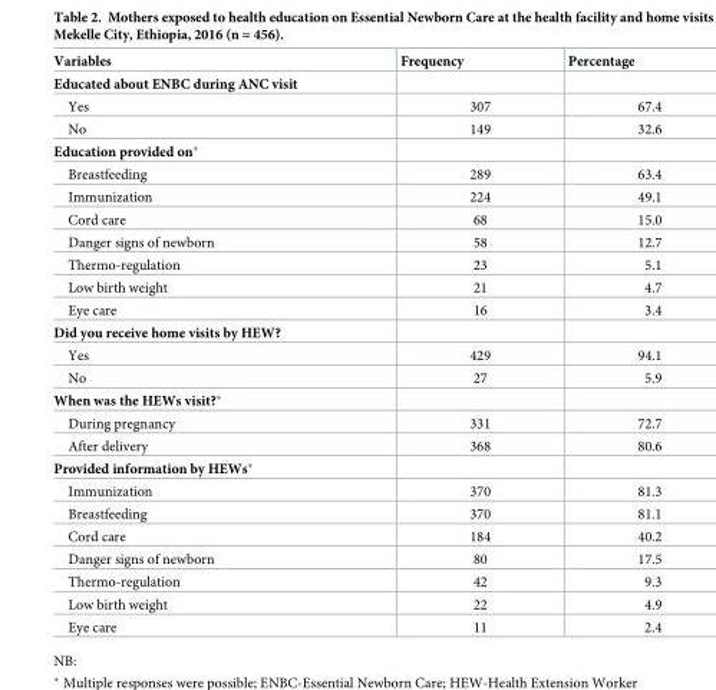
<table><thead><tr><td>Variables</td><td>Frequency</td><td>Percentage</td></tr></thead><tbody><tr><td colspan="3">Educated about ENBC during ANC visit</td></tr><tr><td>Yes</td><td>307</td><td>67.4</td></tr><tr><td>No</td><td>149</td><td>32.6</td></tr><tr><td colspan="3">Education provided on*</td></tr><tr><td>Breastfeeding</td><td>289</td><td>63.4</td></tr><tr><td>Immunization</td><td>224</td><td>49.1</td></tr><tr><td>Cord care</td><td>68</td><td>15.0</td></tr><tr><td>Danger signs of newborn</td><td>58</td><td>12.7</td></tr><tr><td>Thermo-regulation</td><td>23</td><td>5.1</td></tr><tr><td>Low birth weight</td><td>21</td><td>4.7</td></tr><tr><td>Eye care</td><td>16</td><td>3.4</td></tr><tr><td colspan="3">Did you receive home visits by HEW?</td></tr><tr><td>Yes</td><td>429</td><td>94.1</td></tr><tr><td>No</td><td>27</td><td>5.9</td></tr><tr><td colspan="3">When was the HEWs visit?*</td></tr><tr><td>During pregnancy</td><td>331</td><td>72.7</td></tr><tr><td>After delivery</td><td>368</td><td>80.6</td></tr><tr><td colspan="3">Provided information by HEWs*</td></tr><tr><td>Immunization</td><td>370</td><td>81.3</td></tr><tr><td>Breastfeeding</td><td>370</td><td>81.1</td></tr><tr><td>Cord care</td><td>184</td><td>40.2</td></tr><tr><td>Danger signs of newborn</td><td>80</td><td>17.5</td></tr><tr><td>Thermo-regulation</td><td>42</td><td>9.3</td></tr><tr><td>Low birth weight</td><td>22</td><td>4.9</td></tr><tr><td>Eye care</td><td>11</td><td>2.4</td></tr></tbody></table>